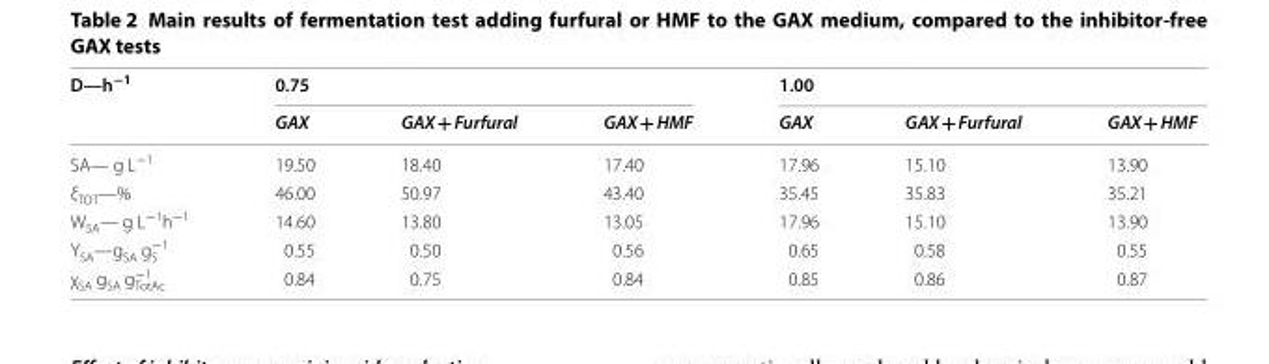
<table><thead><tr><td rowspan="2">D—h<sup>−1</sup></td><td colspan="3">0.75</td><td colspan="3">1.00</td></tr><tr><td>GAX</td><td>GAX + Furfural</td><td>GAX + HMF</td><td>GAX</td><td>GAX + Furfural</td><td>GAX + HMF</td></tr></thead><tbody><tr><td>SA— g L<sup>−1</sup></td><td>19.50</td><td>18.40</td><td>17.40</td><td>17.96</td><td>15.10</td><td>13.90</td></tr><tr><td>ξ<sub>TOT</sub>—%</td><td>46.00</td><td>50.97</td><td>43.40</td><td>35.45</td><td>35.83</td><td>35.21</td></tr><tr><td>W<sub>SA</sub>— g L<sup>−1</sup>h<sup>−1</sup></td><td>14.60</td><td>13.80</td><td>13.05</td><td>17.96</td><td>15.10</td><td>13.90</td></tr><tr><td>Y<sub>SA</sub>—g<sub>SA</sub> g<sub>S</sub> <sup>−1</sup></td><td>0.55</td><td>0.50</td><td>0.56</td><td>0.65</td><td>0.58</td><td>0.55</td></tr><tr><td>χSA gSA g−1 TotAc</td><td>0.84</td><td>0.75</td><td>0.84</td><td>0.85</td><td>0.86</td><td>0.87</td></tr></tbody></table>